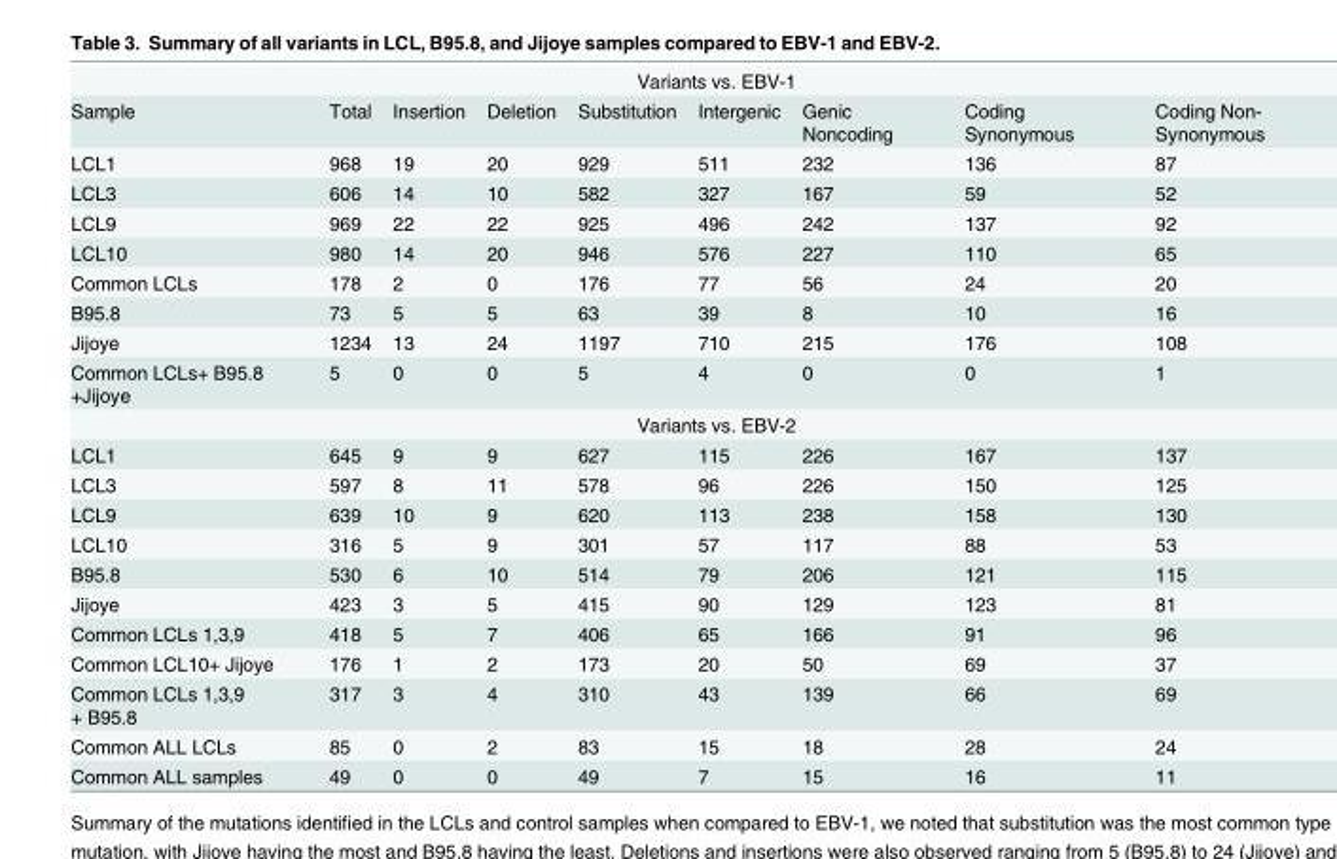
<table><tbody><tr><td colspan="9">Variants vs. EBV-1</td></tr><tr><td>Sample</td><td>Total</td><td>Insertion</td><td>Deletion</td><td>Substitution</td><td>Intergenic</td><td>Genic Noncoding</td><td>Coding Synonymous</td><td>Coding Non- Synonymous</td></tr><tr><td>LCL1</td><td>968</td><td>19</td><td>20</td><td>929</td><td>511</td><td>232</td><td>136</td><td>87</td></tr><tr><td>LCL3</td><td>606</td><td>14</td><td>10</td><td>582</td><td>327</td><td>167</td><td>59</td><td>52</td></tr><tr><td>LCL9</td><td>969</td><td>22</td><td>22</td><td>925</td><td>496</td><td>242</td><td>137</td><td>92</td></tr><tr><td>LCL10</td><td>980</td><td>14</td><td>20</td><td>946</td><td>576</td><td>227</td><td>110</td><td>65</td></tr><tr><td>Common LCLs</td><td>178</td><td>2</td><td>0</td><td>176</td><td>77</td><td>56</td><td>24</td><td>20</td></tr><tr><td>B95.8</td><td>73</td><td>5</td><td>5</td><td>63</td><td>39</td><td>8</td><td>10</td><td>16</td></tr><tr><td>Jijoye</td><td>1234</td><td>13</td><td>24</td><td>1197</td><td>710</td><td>215</td><td>176</td><td>108</td></tr><tr><td>Common LCLs+ B95.8 +Jijoye</td><td>5</td><td>0</td><td>0</td><td>5</td><td>4</td><td>0</td><td>0</td><td>1</td></tr><tr><td colspan="9">Variants vs. EBV-2</td></tr><tr><td>LCL1</td><td>645</td><td>9</td><td>9</td><td>627</td><td>115</td><td>226</td><td>167</td><td>137</td></tr><tr><td>LCL3</td><td>597</td><td>8</td><td>11</td><td>578</td><td>96</td><td>226</td><td>150</td><td>125</td></tr><tr><td>LCL9</td><td>639</td><td>10</td><td>9</td><td>620</td><td>113</td><td>238</td><td>158</td><td>130</td></tr><tr><td>LCL10</td><td>316</td><td>5</td><td>9</td><td>301</td><td>57</td><td>117</td><td>88</td><td>53</td></tr><tr><td>B95.8</td><td>530</td><td>6</td><td>10</td><td>514</td><td>79</td><td>206</td><td>121</td><td>115</td></tr><tr><td>Jijoye</td><td>423</td><td>3</td><td>5</td><td>415</td><td>90</td><td>129</td><td>123</td><td>81</td></tr><tr><td>Common LCLs 1,3,9</td><td>418</td><td>5</td><td>7</td><td>406</td><td>65</td><td>166</td><td>91</td><td>96</td></tr><tr><td>Common LCL10+ Jijoye</td><td>176</td><td>1</td><td>2</td><td>173</td><td>20</td><td>50</td><td>69</td><td>37</td></tr><tr><td>Common LCLs 1,3,9 + B95.8</td><td>317</td><td>3</td><td>4</td><td>310</td><td>43</td><td>139</td><td>66</td><td>69</td></tr><tr><td>Common ALL LCLs</td><td>85</td><td>0</td><td>2</td><td>83</td><td>15</td><td>18</td><td>28</td><td>24</td></tr><tr><td>Common ALL samples</td><td>49</td><td>0</td><td>0</td><td>49</td><td>7</td><td>15</td><td>16</td><td>11</td></tr></tbody></table>